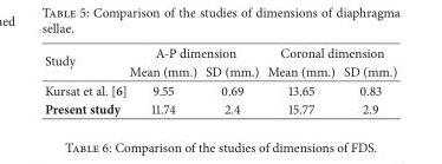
<table><thead><tr><td rowspan="2">Study</td><td colspan="2">A-P dimension</td><td colspan="2">Coronal dimension</td></tr><tr><td>Mean (mm.)</td><td>SD (mm.)</td><td>Mean (mm.)</td><td>SD (mm.)</td></tr></thead><tbody><tr><td>Kursat et al. [6]</td><td>9.55</td><td>0.69</td><td>13.65</td><td>0.83</td></tr><tr><td>Present study</td><td>11.74</td><td>2.4</td><td>15.77</td><td>2.9</td></tr></tbody></table>